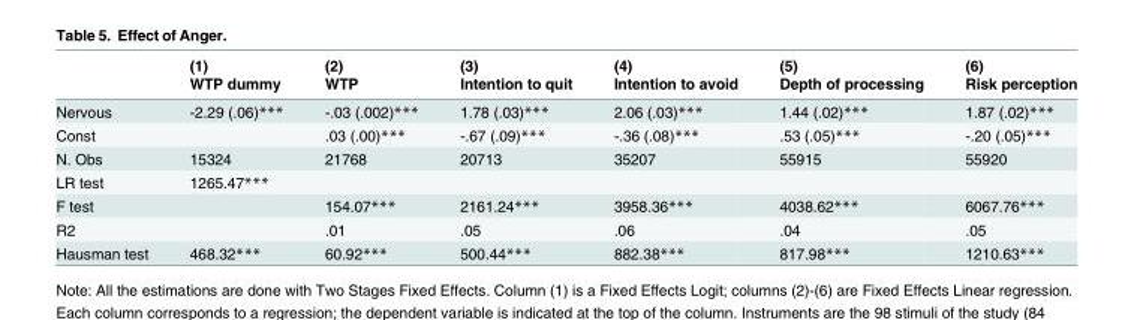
<table><thead><tr><td rowspan="2"></td><td rowspan="2">(1) WTP dummy</td><td rowspan="2">(2) WTP</td><td rowspan="2">(3) Intention to quit</td><td rowspan="2">(4) Intention to avoid</td><td rowspan="2">(5) Depth of processing</td><td rowspan="2">(6) Risk perception</td></tr><tr></tr></thead><tbody><tr><td>Nervous</td><td>-2.29 (.06)***</td><td>-.03 (.002)***</td><td>1.78 (.03)***</td><td>2.06 (.03)***</td><td>1.44 (.02)***</td><td>1.87 (.02)***</td></tr><tr><td>Const</td><td></td><td>.03 (.00)***</td><td>-.67 (.09)***</td><td>-.36 (.08)***</td><td>.53 (.05)***</td><td>-.20 (.05)***</td></tr><tr><td>N. Obs</td><td>15324</td><td>21768</td><td>20713</td><td>35207</td><td>55915</td><td>55920</td></tr><tr><td>LR test</td><td>1265.47***</td><td></td><td></td><td></td><td></td><td></td></tr><tr><td>F test</td><td></td><td>154.07***</td><td>2161.24***</td><td>3958.36***</td><td>4038.62***</td><td>6067.76***</td></tr><tr><td>R2</td><td></td><td>.01</td><td>.05</td><td>.06</td><td>.04</td><td>.05</td></tr><tr><td>Hausman test</td><td>468.32***</td><td>60.92***</td><td>500.44***</td><td>882.38***</td><td>817.98***</td><td>1210.63***</td></tr></tbody></table>